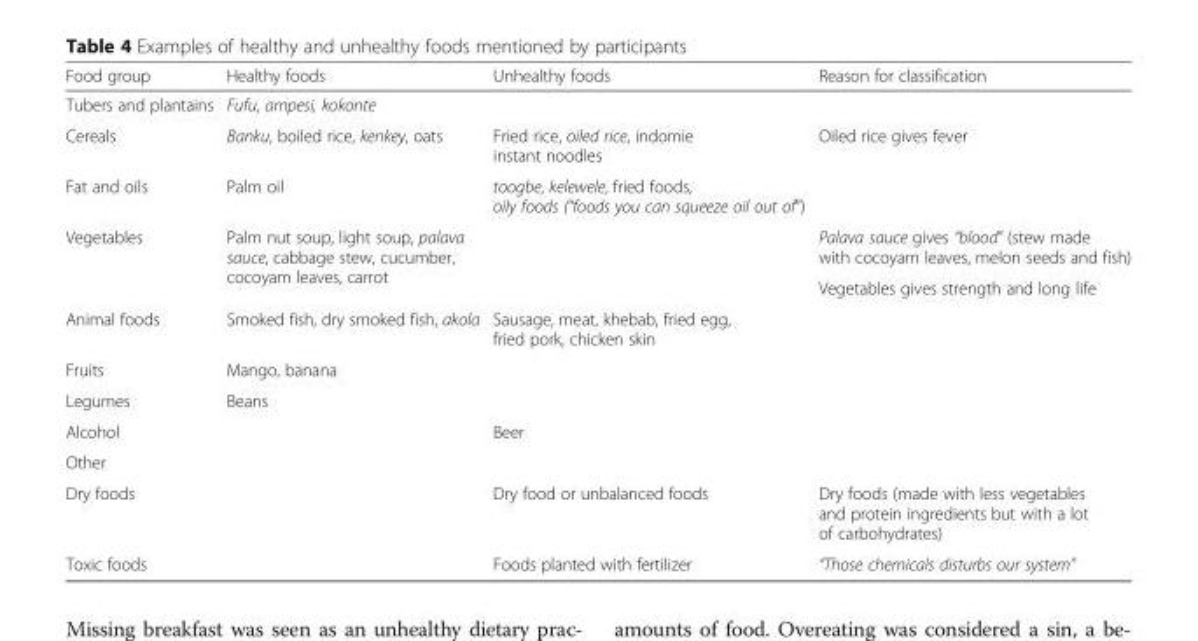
<table><thead><tr><td>Food group</td><td>Healthy foods</td><td>Unhealthy foods</td><td>Reason for classification</td></tr></thead><tbody><tr><td>Tubers and plantains</td><td>Fufu, ampesi, kokonte</td><td></td><td></td></tr><tr><td>Cereals</td><td>Banku, boiled rice, kenkey, oats</td><td>Fried rice, oiled rice, indomie instant noodles</td><td>Oiled rice gives fever</td></tr><tr><td>Fat and oils</td><td>Palm oil</td><td>toogbe, kelewele, fried foods, oily foods (“foods you can squeeze oil out of”)</td><td></td></tr><tr><td rowspan="2">Vegetables</td><td rowspan="2">Palm nut soup, light soup, palava sauce, cabbage stew, cucumber, cocoyam leaves, carrot</td><td rowspan="2"></td><td>Palava sauce gives “blood” (stew made with cocoyam leaves, melon seeds and fish)</td></tr><tr><td>Vegetables gives strength and long life</td></tr><tr><td>Animal foods</td><td>Smoked fish, dry smoked fish, akola</td><td>Sausage, meat, khebab, fried egg, fried pork, chicken skin</td><td></td></tr><tr><td>Fruits</td><td>Mango, banana</td><td></td><td></td></tr><tr><td>Legumes</td><td>Beans</td><td></td><td></td></tr><tr><td>Alcohol</td><td></td><td>Beer</td><td></td></tr><tr><td colspan="4">Other</td></tr><tr><td>Dry foods</td><td></td><td>Dry food or unbalanced foods</td><td>Dry foods (made with less vegetables and protein ingredients but with a lot of carbohydrates)</td></tr><tr><td>Toxic foods</td><td></td><td>Foods planted with fertilizer</td><td>“Those chemicals disturbs our system”</td></tr></tbody></table>